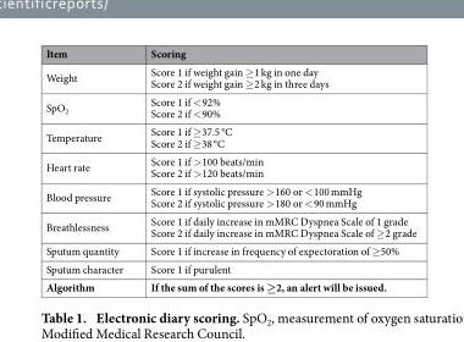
<table><thead><tr><td>Item</td><td>Scoring</td></tr></thead><tbody><tr><td>Weight</td><td>Score 1 if weight gain ≥ 1 kg in one day Score 2 if weight gain ≥ 2 kg in three days</td></tr><tr><td>SpO<sub>2</sub></td><td>Score 1 if &lt; 92% Score 2 if &lt; 90%</td></tr><tr><td>Temperature</td><td>Score 1 if ≥37.5 °C Score 2 if ≥38 °C</td></tr><tr><td>Heart rate</td><td>Score 1 if &gt; 100 beats/min Score 2 if &gt; 120 beats/min</td></tr><tr><td>Blood pressure</td><td>Score 1 if systolic pressure &gt; 160 or &lt; 100 mmHg Score 2 if systolic pressure &gt; 180 or &lt; 90 mmHg</td></tr><tr><td>Breathlessness</td><td>Score 1 if daily increase in mMRC Dyspnea Scale of 1 grade Score 2 if daily increase in mMRC Dyspnea Scale of ≥ 2 grade</td></tr><tr><td>Sputum quantity</td><td>Score 1 if increase in frequency of expectoration of ≥50%</td></tr><tr><td>Sputum character</td><td>Score 1 if purulent</td></tr><tr><td>Algorithm</td><td>If the sum of the scores is ≥2, an alert will be issued.</td></tr></tbody></table>